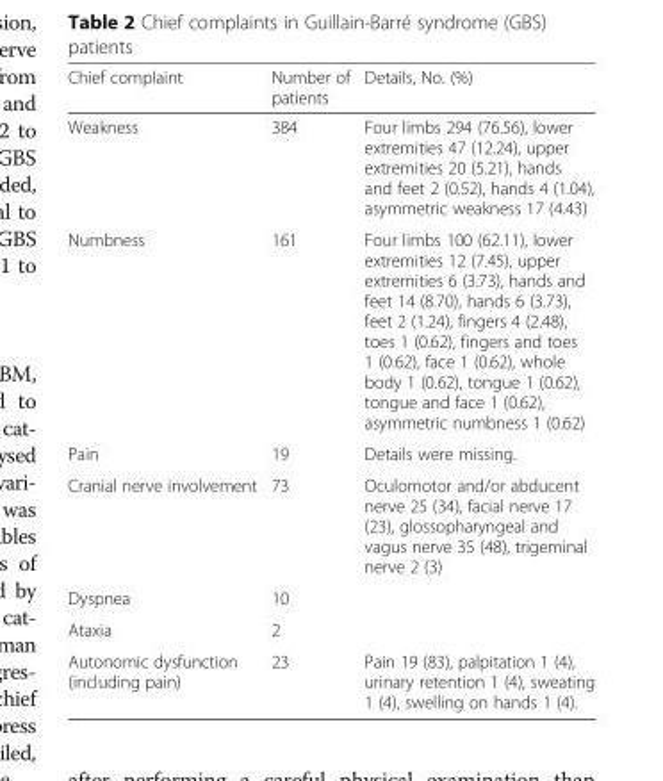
<table><thead><tr><td>Chief complaint</td><td>Number of patients</td><td>Details, No. (%)</td></tr></thead><tbody><tr><td>Weakness</td><td>384</td><td>Four limbs 294 (76.56), lower extremities 47 (12.24), upper extremities 20 (5.21), hands and feet 2 (0.52), hands 4 (1.04), asymmetric weakness 17 (4.43)</td></tr><tr><td>Numbness</td><td>161</td><td>Four limbs 100 (62.11), lower extremities 12 (7.45), upper extremities 6 (3.73), hands and feet 14 (8.70), hands 6 (3.73), feet 2 (1.24), fingers 4 (2.48), toes 1 (0.62), fingers and toes 1 (0.62), face 1 (0.62), whole body 1 (0.62), tongue 1 (0.62), tongue and face 1 (0.62), asymmetric numbness 1 (0.62)</td></tr><tr><td>Pain</td><td>19</td><td>Details were missing.</td></tr><tr><td>Cranial nerve involvement</td><td>73</td><td>Oculomotor and/or abducent nerve 25 (34), facial nerve 17 (23), glossopharyngeal and vagus nerve 35 (48), trigeminal nerve 2 (3)</td></tr><tr><td>Dyspnea</td><td>10</td><td></td></tr><tr><td>Ataxia</td><td>2</td><td></td></tr><tr><td>Autonomic dysfunction (including pain)</td><td>23</td><td>Pain 19 (83), palpitation 1 (4), urinary retention 1 (4), sweating 1 (4), swelling on hands 1 (4).</td></tr></tbody></table>